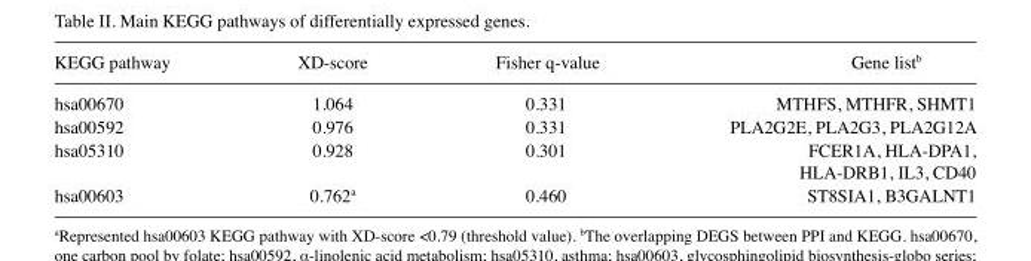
<table><thead><tr><td>KEGG pathway</td><td>XD‑score</td><td>Fisher q‑value</td><td>Gene list<sup>b</sup></td></tr></thead><tbody><tr><td>hsa00670</td><td>1.064</td><td>0.331</td><td>MTHFS, MTHFR, SHMT1</td></tr><tr><td>hsa00592</td><td>0.976</td><td>0.331</td><td>PLA2G2E, PLA2G3, PLA2G12A</td></tr><tr><td>hsa05310</td><td>0.928</td><td>0.301</td><td>FCER1A, HLA‑DPA1, HLA-DRB1, IL3, CD40</td></tr><tr><td>hsa00603</td><td>0.762<sup>a</sup></td><td>0.460</td><td>ST8SIA1, B3GALNT1</td></tr></tbody></table>